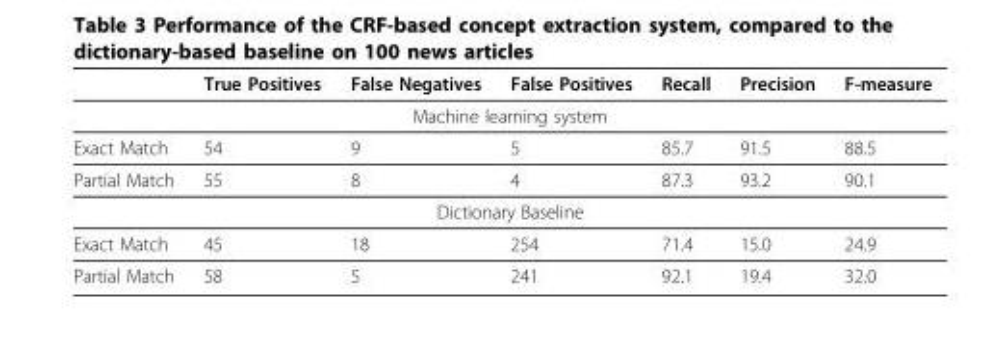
<table><thead><tr><td></td><td>True Positives</td><td>False Negatives</td><td>False Positives</td><td>Recall</td><td>Precision</td><td>F-measure</td></tr></thead><tbody><tr><td colspan="7">Machine learning system</td></tr><tr><td>Exact Match</td><td>54</td><td>9</td><td>5</td><td>85.7</td><td>91.5</td><td>88.5</td></tr><tr><td>Partial Match</td><td>55</td><td>8</td><td>4</td><td>87.3</td><td>93.2</td><td>90.1</td></tr><tr><td colspan="7">Dictionary Baseline</td></tr><tr><td>Exact Match</td><td>45</td><td>18</td><td>254</td><td>71.4</td><td>15.0</td><td>24.9</td></tr><tr><td>Partial Match</td><td>58</td><td>5</td><td>241</td><td>92.1</td><td>19.4</td><td>32.0</td></tr></tbody></table>